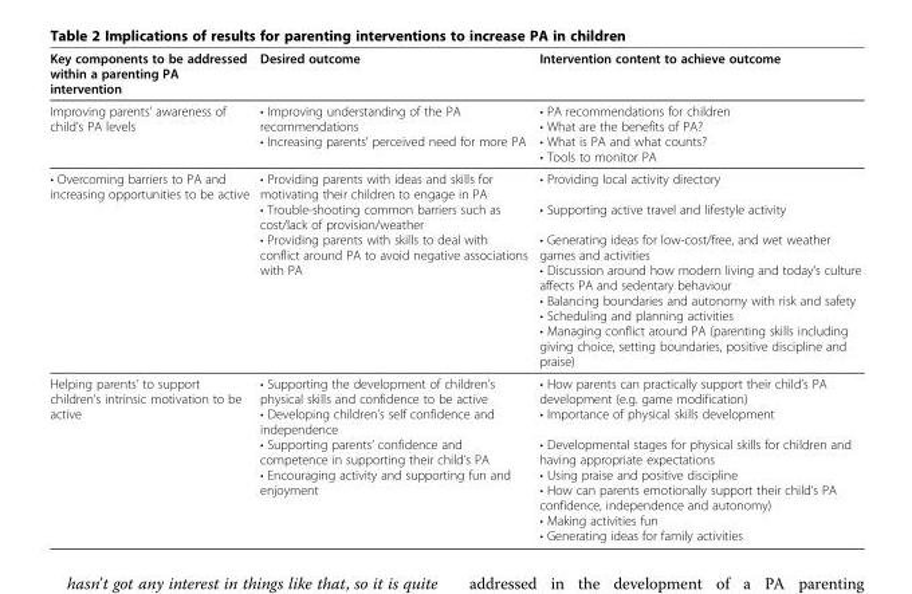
<table><thead><tr><td>Key components to be addressed within a parenting PA intervention</td><td>Desired outcome</td><td>Intervention content to achieve outcome</td></tr></thead><tbody><tr><td rowspan="4">Improving parents’ awareness of child’s PA levels</td><td rowspan="2">• Improving understanding of the PA recommendations</td><td>• PA recommendations for children</td></tr><tr><td>• What are the benefits of PA?</td></tr><tr><td rowspan="2">• Increasing parents’ perceived need for more PA</td><td>• What is PA and what counts?</td></tr><tr><td>• Tools to monitor PA</td></tr><tr><td rowspan="7">• Overcoming barriers to PA and increasing opportunities to be active</td><td>• Providing parents with ideas and skills for motivating their children to engage in PA</td><td>• Providing local activity directory</td></tr><tr><td>• Trouble-shooting common barriers such as cost/lack of provision/weather</td><td>• Supporting active travel and lifestyle activity</td></tr><tr><td rowspan="5">• Providing parents with skills to deal with conflict around PA to avoid negative associations with PA</td><td>• Generating ideas for low-cost/free, and wet weather games and activities</td></tr><tr><td>• Discussion around how modern living and today’s culture affects PA and sedentary behaviour</td></tr><tr><td>• Balancing boundaries and autonomy with risk and safety</td></tr><tr><td>• Scheduling and planning activities</td></tr><tr><td>• Managing conflict around PA (parenting skills including giving choice, setting boundaries, positive discipline and praise)</td></tr><tr><td rowspan="7">Helping parents’ to support children’s intrinsic motivation to be active</td><td>• Supporting the development of children’s physical skills and confidence to be active</td><td>• How parents can practically support their child’s PA development (e.g. game modification)</td></tr><tr><td>• Developing children’s self confidence and independence</td><td>• Importance of physical skills development</td></tr><tr><td>• Supporting parents’ confidence and competence in supporting their child’s PA</td><td>• Developmental stages for physical skills for children and having appropriate expectations</td></tr><tr><td rowspan="4">• Encouraging activity and supporting fun and enjoyment</td><td>• Using praise and positive discipline</td></tr><tr><td>• How can parents emotionally support their child’s PA confidence, independence and autonomy)</td></tr><tr><td>• Making activities fun</td></tr><tr><td>• Generating ideas for family activities</td></tr></tbody></table>